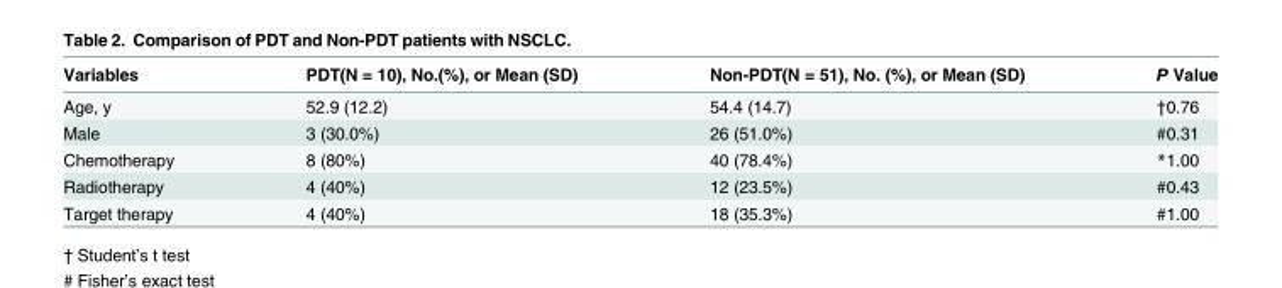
<table><thead><tr><td>Variables</td><td>PDT(N = 10), No.(%), or Mean (SD)</td><td>Non-PDT(N = 51), No. (%), or Mean (SD)</td><td>P Value</td></tr></thead><tbody><tr><td>Age, y</td><td>52.9 (12.2)</td><td>54.4 (14.7)</td><td>†0.76</td></tr><tr><td>Male</td><td>3 (30.0%)</td><td>26 (51.0%)</td><td>#0.31</td></tr><tr><td>Chemotherapy</td><td>8 (80%)</td><td>40 (78.4%)</td><td>*1.00</td></tr><tr><td>Radiotherapy</td><td>4 (40%)</td><td>12 (23.5%)</td><td>#0.43</td></tr><tr><td>Target therapy</td><td>4 (40%)</td><td>18 (35.3%)</td><td>#1.00</td></tr></tbody></table>